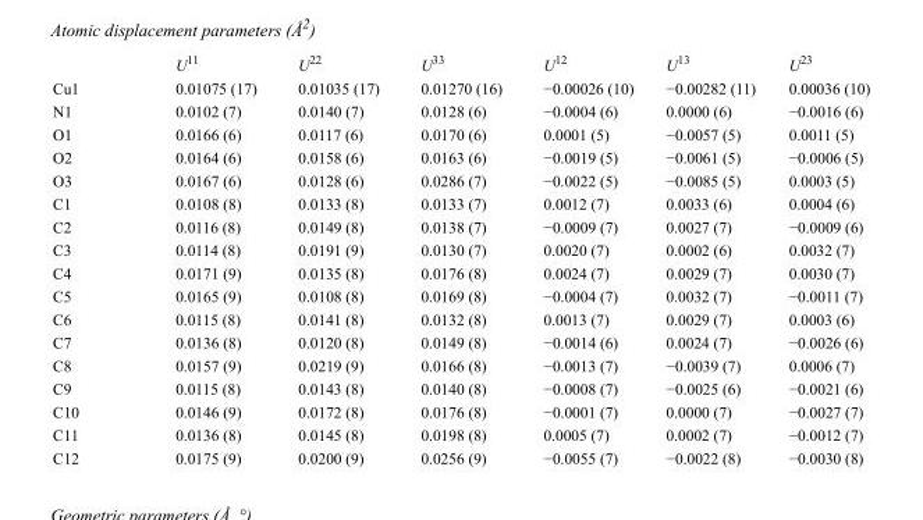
<table><thead><tr><td></td><td>U<sup>11</sup></td><td>U<sup>22</sup></td><td>U<sup>33</sup></td><td>U<sup>12</sup></td><td>U<sup>13</sup></td><td>U<sup>23</sup></td></tr></thead><tbody><tr><td>Cu1</td><td>0.01075 (17)</td><td>0.01035 (17)</td><td>0.01270 (16)</td><td>−0.00026 (10)</td><td>−0.00282 (11)</td><td>0.00036 (10)</td></tr><tr><td>N1</td><td>0.0102 (7)</td><td>0.0140 (7)</td><td>0.0128 (6)</td><td>−0.0004 (6)</td><td>0.0000 (6)</td><td>−0.0016 (6)</td></tr><tr><td>O1</td><td>0.0166 (6)</td><td>0.0117 (6)</td><td>0.0170 (6)</td><td>0.0001 (5)</td><td>−0.0057 (5)</td><td>0.0011 (5)</td></tr><tr><td>O2</td><td>0.0164 (6)</td><td>0.0158 (6)</td><td>0.0163 (6)</td><td>−0.0019 (5)</td><td>−0.0061 (5)</td><td>−0.0006 (5)</td></tr><tr><td>O3</td><td>0.0167 (6)</td><td>0.0128 (6)</td><td>0.0286 (7)</td><td>−0.0022 (5)</td><td>−0.0085 (5)</td><td>0.0003 (5)</td></tr><tr><td>C1</td><td>0.0108 (8)</td><td>0.0133 (8)</td><td>0.0133 (7)</td><td>0.0012 (7)</td><td>0.0033 (6)</td><td>0.0004 (6)</td></tr><tr><td>C2</td><td>0.0116 (8)</td><td>0.0149 (8)</td><td>0.0138 (7)</td><td>−0.0009 (7)</td><td>0.0027 (7)</td><td>−0.0009 (6)</td></tr><tr><td>C3</td><td>0.0114 (8)</td><td>0.0191 (9)</td><td>0.0130 (7)</td><td>0.0020 (7)</td><td>0.0002 (6)</td><td>0.0032 (7)</td></tr><tr><td>C4</td><td>0.0171 (9)</td><td>0.0135 (8)</td><td>0.0176 (8)</td><td>0.0024 (7)</td><td>0.0029 (7)</td><td>0.0030 (7)</td></tr><tr><td>C5</td><td>0.0165 (9)</td><td>0.0108 (8)</td><td>0.0169 (8)</td><td>−0.0004 (7)</td><td>0.0032 (7)</td><td>−0.0011 (7)</td></tr><tr><td>C6</td><td>0.0115 (8)</td><td>0.0141 (8)</td><td>0.0132 (8)</td><td>0.0013 (7)</td><td>0.0029 (7)</td><td>0.0003 (6)</td></tr><tr><td>C7</td><td>0.0136 (8)</td><td>0.0120 (8)</td><td>0.0149 (8)</td><td>−0.0014 (6)</td><td>0.0024 (7)</td><td>−0.0026 (6)</td></tr><tr><td>C8</td><td>0.0157 (9)</td><td>0.0219 (9)</td><td>0.0166 (8)</td><td>−0.0013 (7)</td><td>−0.0039 (7)</td><td>0.0006 (7)</td></tr><tr><td>C9</td><td>0.0115 (8)</td><td>0.0143 (8)</td><td>0.0140 (8)</td><td>−0.0008 (7)</td><td>−0.0025 (6)</td><td>−0.0021 (6)</td></tr><tr><td>C10</td><td>0.0146 (9)</td><td>0.0172 (8)</td><td>0.0176 (8)</td><td>−0.0001 (7)</td><td>0.0000 (7)</td><td>−0.0027 (7)</td></tr><tr><td>C11</td><td>0.0136 (8)</td><td>0.0145 (8)</td><td>0.0198 (8)</td><td>0.0005 (7)</td><td>0.0002 (7)</td><td>−0.0012 (7)</td></tr><tr><td>C12</td><td>0.0175 (9)</td><td>0.0200 (9)</td><td>0.0256 (9)</td><td>−0.0055 (7)</td><td>−0.0022 (8)</td><td>−0.0030 (8)</td></tr></tbody></table>